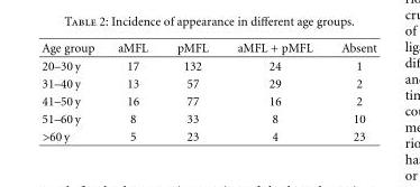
<table><thead><tr><td>Age group</td><td>aMFL</td><td>pMFL</td><td>aMFL + pMFL</td><td>Absent</td></tr></thead><tbody><tr><td>20–30 y</td><td>17</td><td>132</td><td>24</td><td>1</td></tr><tr><td>31–40 y</td><td>13</td><td>57</td><td>29</td><td>2</td></tr><tr><td>41–50 y</td><td>16</td><td>77</td><td>16</td><td>2</td></tr><tr><td>51–60 y</td><td>8</td><td>33</td><td>8</td><td>10</td></tr><tr><td>&gt;60 y</td><td>5</td><td>23</td><td>4</td><td>23</td></tr></tbody></table>